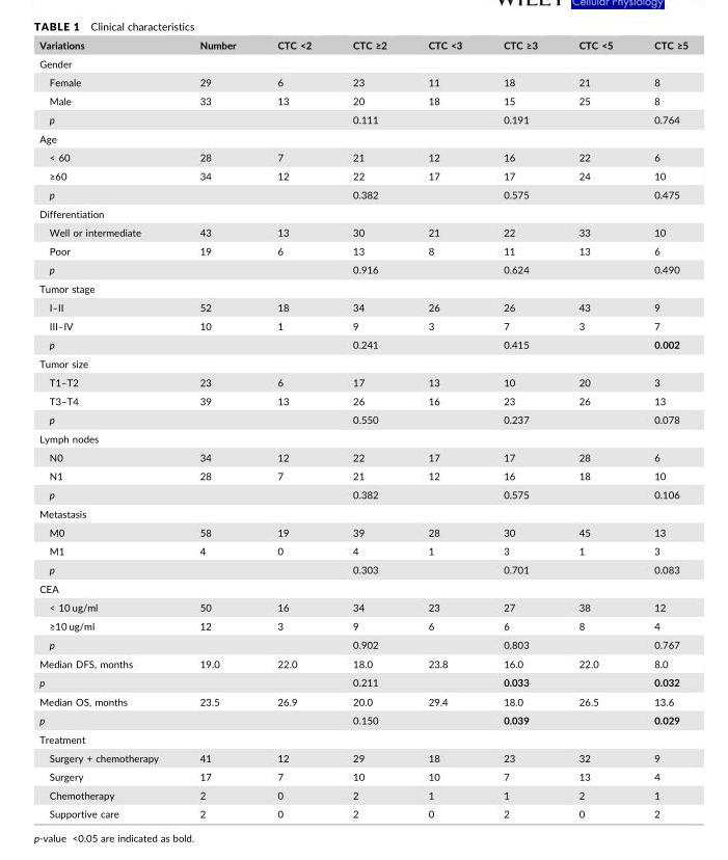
<table><thead><tr><td>Variations</td><td>Number</td><td>CTC &lt;2</td><td>CTC ≥2</td><td>CTC &lt;3</td><td>CTC ≥3</td><td>CTC &lt;5</td><td>CTC ≥5</td></tr></thead><tbody><tr><td colspan="8">Gender</td></tr><tr><td>Female</td><td>29</td><td>6</td><td>23</td><td>11</td><td>18</td><td>21</td><td>8</td></tr><tr><td>Male</td><td>33</td><td>13</td><td>20</td><td>18</td><td>15</td><td>25</td><td>8</td></tr><tr><td>p</td><td></td><td></td><td>0.111</td><td></td><td>0.191</td><td></td><td>0.764</td></tr><tr><td colspan="8">Age</td></tr><tr><td>&lt; 60</td><td>28</td><td>7</td><td>21</td><td>12</td><td>16</td><td>22</td><td>6</td></tr><tr><td>≥60</td><td>34</td><td>12</td><td>22</td><td>17</td><td>17</td><td>24</td><td>10</td></tr><tr><td>p</td><td></td><td></td><td>0.382</td><td></td><td>0.575</td><td></td><td>0.475</td></tr><tr><td colspan="8">Differentiation</td></tr><tr><td>Well or intermediate</td><td>43</td><td>13</td><td>30</td><td>21</td><td>22</td><td>33</td><td>10</td></tr><tr><td>Poor</td><td>19</td><td>6</td><td>13</td><td>8</td><td>11</td><td>13</td><td>6</td></tr><tr><td>p</td><td></td><td></td><td>0.916</td><td></td><td>0.624</td><td></td><td>0.490</td></tr><tr><td colspan="8">Tumor stage</td></tr><tr><td>I–II</td><td>52</td><td>18</td><td>34</td><td>26</td><td>26</td><td>43</td><td>9</td></tr><tr><td>III–IV</td><td>10</td><td>1</td><td>9</td><td>3</td><td>7</td><td>3</td><td>7</td></tr><tr><td>p</td><td></td><td></td><td>0.241</td><td></td><td>0.415</td><td></td><td>0.002</td></tr><tr><td colspan="8">Tumor size</td></tr><tr><td>T1–T2</td><td>23</td><td>6</td><td>17</td><td>13</td><td>10</td><td>20</td><td>3</td></tr><tr><td>T3–T4</td><td>39</td><td>13</td><td>26</td><td>16</td><td>23</td><td>26</td><td>13</td></tr><tr><td>p</td><td></td><td></td><td>0.550</td><td></td><td>0.237</td><td></td><td>0.078</td></tr><tr><td colspan="8">Lymph nodes</td></tr><tr><td>N0</td><td>34</td><td>12</td><td>22</td><td>17</td><td>17</td><td>28</td><td>6</td></tr><tr><td>N1</td><td>28</td><td>7</td><td>21</td><td>12</td><td>16</td><td>18</td><td>10</td></tr><tr><td>p</td><td></td><td></td><td>0.382</td><td></td><td>0.575</td><td></td><td>0.106</td></tr><tr><td colspan="8">Metastasis</td></tr><tr><td>M0</td><td>58</td><td>19</td><td>39</td><td>28</td><td>30</td><td>45</td><td>13</td></tr><tr><td>M1</td><td>4</td><td>0</td><td>4</td><td>1</td><td>3</td><td>1</td><td>3</td></tr><tr><td>p</td><td></td><td></td><td>0.303</td><td></td><td>0.701</td><td></td><td>0.083</td></tr><tr><td colspan="8">CEA</td></tr><tr><td>&lt; 10 ug/ml</td><td>50</td><td>16</td><td>34</td><td>23</td><td>27</td><td>38</td><td>12</td></tr><tr><td>≥10 ug/ml</td><td>12</td><td>3</td><td>9</td><td>6</td><td>6</td><td>8</td><td>4</td></tr><tr><td>p</td><td></td><td></td><td>0.902</td><td></td><td>0.803</td><td></td><td>0.767</td></tr><tr><td>Median DFS, months</td><td>19.0</td><td>22.0</td><td>18.0</td><td>23.8</td><td>16.0</td><td>22.0</td><td>8.0</td></tr><tr><td>p</td><td></td><td></td><td>0.211</td><td></td><td>0.033</td><td></td><td>0.032</td></tr><tr><td>Median OS, months</td><td>23.5</td><td>26.9</td><td>20.0</td><td>29.4</td><td>18.0</td><td>26.5</td><td>13.6</td></tr><tr><td>p</td><td></td><td></td><td>0.150</td><td></td><td>0.039</td><td></td><td>0.029</td></tr><tr><td colspan="8">Treatment</td></tr><tr><td>Surgery + chemotherapy</td><td>41</td><td>12</td><td>29</td><td>18</td><td>23</td><td>32</td><td>9</td></tr><tr><td>Surgery</td><td>17</td><td>7</td><td>10</td><td>10</td><td>7</td><td>13</td><td>4</td></tr><tr><td>Chemotherapy</td><td>2</td><td>0</td><td>2</td><td>1</td><td>1</td><td>2</td><td>1</td></tr><tr><td>Supportive care</td><td>2</td><td>0</td><td>2</td><td>0</td><td>2</td><td>0</td><td>2</td></tr></tbody></table>